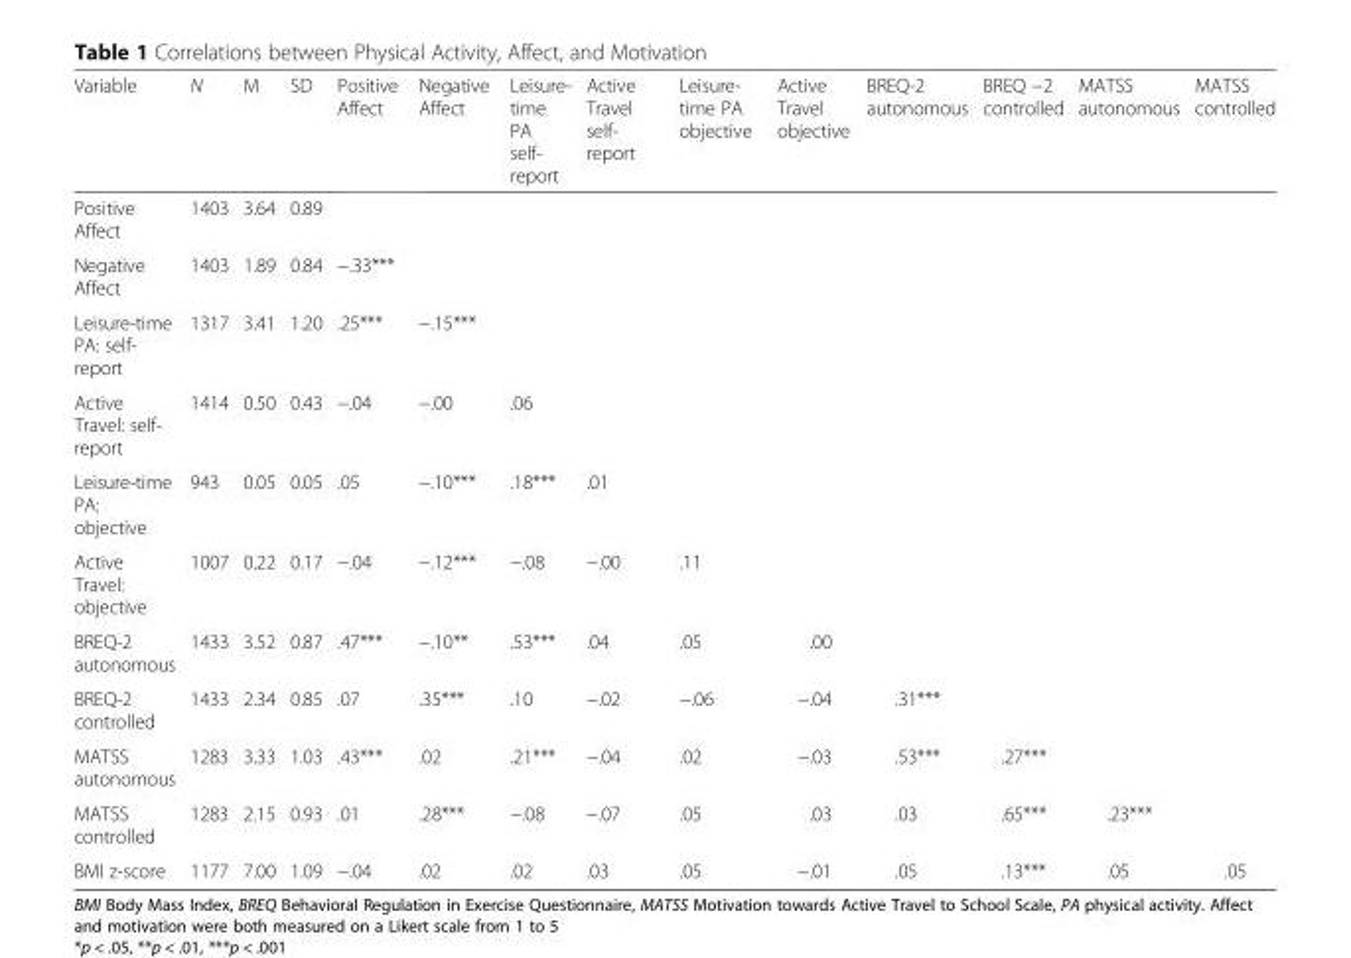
<table><thead><tr><td>Variable</td><td>N</td><td>M</td><td>SD</td><td>Positive Affect</td><td>Negative Affect</td><td>Leisure- time PA self- report</td><td>Active Travel self- report</td><td>Leisure- time PA objective</td><td>Active Travel objective</td><td>BREQ-2 autonomous</td><td>BREQ −2 controlled</td><td>MATSS autonomous</td><td>MATSS controlled</td></tr></thead><tbody><tr><td>Positive Affect</td><td>1403</td><td>3.64</td><td>0.89</td><td></td><td></td><td></td><td></td><td></td><td></td><td></td><td></td><td></td><td></td></tr><tr><td>Negative Affect</td><td>1403</td><td>1.89</td><td>0.84</td><td>−.33***</td><td></td><td></td><td></td><td></td><td></td><td></td><td></td><td></td><td></td></tr><tr><td>Leisure-time PA: self- report</td><td>1317</td><td>3.41</td><td>1.20</td><td>.25***</td><td>−.15***</td><td></td><td></td><td></td><td></td><td></td><td></td><td></td><td></td></tr><tr><td>Active Travel: self- report</td><td>1414</td><td>0.50</td><td>0.43</td><td>−.04</td><td>−.00</td><td>.06</td><td></td><td></td><td></td><td></td><td></td><td></td><td></td></tr><tr><td>Leisure-time PA: objective</td><td>943</td><td>0.05</td><td>0.05</td><td>.05</td><td>−.10***</td><td>.18***</td><td>.01</td><td></td><td></td><td></td><td></td><td></td><td></td></tr><tr><td>Active Travel: objective</td><td>1007</td><td>0.22</td><td>0.17</td><td>−.04</td><td>−.12***</td><td>−.08</td><td>−.00</td><td>.11</td><td></td><td></td><td></td><td></td><td></td></tr><tr><td>BREQ-2 autonomous</td><td>1433</td><td>3.52</td><td>0.87</td><td>.47***</td><td>−.10**</td><td>.53***</td><td>.04</td><td>.05</td><td>.00</td><td></td><td></td><td></td><td></td></tr><tr><td>BREQ-2 controlled</td><td>1433</td><td>2.34</td><td>0.85</td><td>.07</td><td>.35***</td><td>.10</td><td>−.02</td><td>−.06</td><td>−.04</td><td>.31***</td><td></td><td></td><td></td></tr><tr><td>MATSS autonomous</td><td>1283</td><td>3.33</td><td>1.03</td><td>.43***</td><td>.02</td><td>.21***</td><td>−.04</td><td>.02</td><td>−.03</td><td>.53***</td><td>.27***</td><td></td><td></td></tr><tr><td>MATSS controlled</td><td>1283</td><td>2.15</td><td>0.93</td><td>.01</td><td>.28***</td><td>−.08</td><td>−.07</td><td>.05</td><td>.03</td><td>.03</td><td>.65***</td><td>.23***</td><td></td></tr><tr><td>BMI z-score</td><td>1177</td><td>7.00</td><td>1.09</td><td>−.04</td><td>.02</td><td>.02</td><td>.03</td><td>.05</td><td>−.01</td><td>.05</td><td>.13***</td><td>.05</td><td>.05</td></tr></tbody></table>